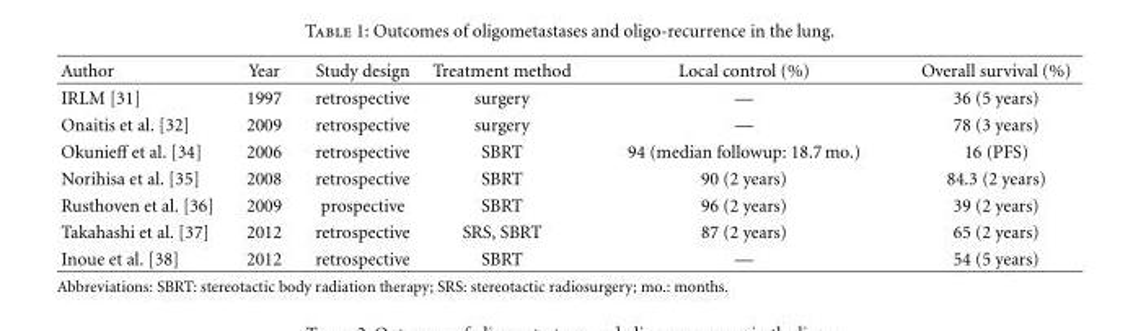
<table><thead><tr><td>Author</td><td>Year</td><td>Study design</td><td>Treatment method</td><td>Local control (%)</td><td>Overall survival (%)</td></tr></thead><tbody><tr><td>IRLM [31]</td><td>1997</td><td>retrospective</td><td>surgery</td><td>—</td><td>36 (5 years)</td></tr><tr><td>Onaitis et al. [32]</td><td>2009</td><td>retrospective</td><td>surgery</td><td>—</td><td>78 (3 years)</td></tr><tr><td>Okunieff et al. [34]</td><td>2006</td><td>retrospective</td><td>SBRT</td><td>94 (median followup: 18.7 mo.)</td><td>16 (PFS)</td></tr><tr><td>Norihisa et al. [35]</td><td>2008</td><td>retrospective</td><td>SBRT</td><td>90 (2 years)</td><td>84.3 (2 years)</td></tr><tr><td>Rusthoven et al. [36]</td><td>2009</td><td>prospective</td><td>SBRT</td><td>96 (2 years)</td><td>39 (2 years)</td></tr><tr><td>Takahashi et al. [37]</td><td>2012</td><td>retrospective</td><td>SRS, SBRT</td><td>87 (2 years)</td><td>65 (2 years)</td></tr><tr><td>Inoue et al. [38]</td><td>2012</td><td>retrospective</td><td>SBRT</td><td>—</td><td>54 (5 years)</td></tr></tbody></table>